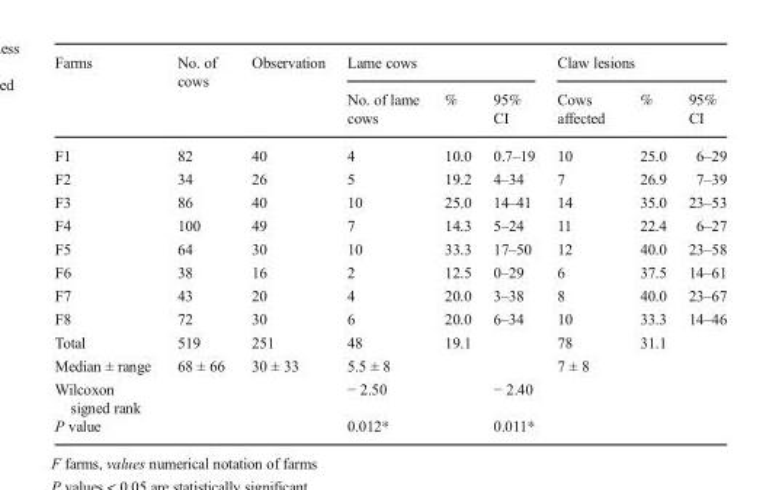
<table><thead><tr><td rowspan="2">Farms</td><td rowspan="2">No. of cows</td><td rowspan="2">Observation</td><td colspan="3">Lame cows</td><td colspan="3">Claw lesions</td></tr><tr><td>No. of lame cows</td><td>%</td><td>95% CI</td><td>Cows affected</td><td>%</td><td>95% CI</td></tr></thead><tbody><tr><td>F1</td><td>82</td><td>40</td><td>4</td><td>10.0</td><td>0.7–19</td><td>10</td><td>25.0</td><td>6–29</td></tr><tr><td>F2</td><td>34</td><td>26</td><td>5</td><td>19.2</td><td>4–34</td><td>7</td><td>26.9</td><td>7–39</td></tr><tr><td>F3</td><td>86</td><td>40</td><td>10</td><td>25.0</td><td>14–41</td><td>14</td><td>35.0</td><td>23–53</td></tr><tr><td>F4</td><td>100</td><td>49</td><td>7</td><td>14.3</td><td>5–24</td><td>11</td><td>22.4</td><td>6–27</td></tr><tr><td>F5</td><td>64</td><td>30</td><td>10</td><td>33.3</td><td>17–50</td><td>12</td><td>40.0</td><td>23–58</td></tr><tr><td>F6</td><td>38</td><td>16</td><td>2</td><td>12.5</td><td>0–29</td><td>6</td><td>37.5</td><td>14–61</td></tr><tr><td>F7</td><td>43</td><td>20</td><td>4</td><td>20.0</td><td>3–38</td><td>8</td><td>40.0</td><td>23–67</td></tr><tr><td>F8</td><td>72</td><td>30</td><td>6</td><td>20.0</td><td>6–34</td><td>10</td><td>33.3</td><td>14–46</td></tr><tr><td>Total</td><td>519</td><td>251</td><td>48</td><td>19.1</td><td></td><td>78</td><td>31.1</td><td></td></tr><tr><td>Median ± range</td><td>68 ± 66</td><td>30 ± 33</td><td>5.5 ± 8</td><td></td><td></td><td>7 ± 8</td><td></td><td></td></tr><tr><td>Wilcoxon signed rank</td><td></td><td></td><td>− 2.50</td><td></td><td>− 2.40</td><td></td><td></td><td></td></tr><tr><td>P value</td><td></td><td></td><td>0.012*</td><td></td><td>0.011*</td><td></td><td></td><td></td></tr></tbody></table>